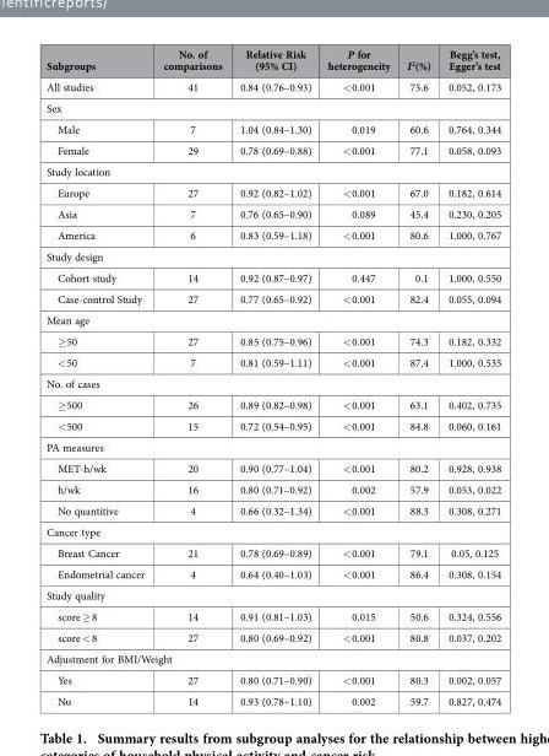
<table><thead><tr><td>Subgroups</td><td>No. of comparisons</td><td>Relative Risk (95% CI)</td><td>P for heterogeneity</td><td>I<sup>2</sup>(%)</td><td>Begg’s test, Egger’s test</td></tr></thead><tbody><tr><td>All studies</td><td>41</td><td>0.84 (0.76–0.93)</td><td>&lt; 0.001</td><td>75.6</td><td>0.052, 0.173</td></tr><tr><td colspan="6">Sex</td></tr><tr><td>Male</td><td>7</td><td>1.04 (0.84–1.30)</td><td>0.019</td><td>60.6</td><td>0.764, 0.344</td></tr><tr><td>Female</td><td>29</td><td>0.78 (0.69–0.88)</td><td>&lt; 0.001</td><td>77.1</td><td>0.058, 0.093</td></tr><tr><td colspan="6">Study location</td></tr><tr><td>Europe</td><td>27</td><td>0.92 (0.82–1.02)</td><td>&lt; 0.001</td><td>67.0</td><td>0.182, 0.614</td></tr><tr><td>Asia</td><td>7</td><td>0.76 (0.65–0.90)</td><td>0.089</td><td>45.4</td><td>0.230, 0.205</td></tr><tr><td>America</td><td>6</td><td>0.83 (0.59–1.18)</td><td>&lt; 0.001</td><td>80.6</td><td>1.000, 0.767</td></tr><tr><td colspan="6">Study design</td></tr><tr><td>Cohort study</td><td>14</td><td>0.92 (0.87–0.97)</td><td>0.447</td><td>0.1</td><td>1.000, 0.550</td></tr><tr><td>Case-control Study</td><td>27</td><td>0.77 (0.65–0.92)</td><td>&lt; 0.001</td><td>82.4</td><td>0.055, 0.094</td></tr><tr><td colspan="6">Mean age</td></tr><tr><td>≥ 50</td><td>27</td><td>0.85 (0.75–0.96)</td><td>&lt; 0.001</td><td>74.3</td><td>0.182, 0.332</td></tr><tr><td>&lt; 50</td><td>7</td><td>0.81 (0.59–1.11)</td><td>&lt; 0.001</td><td>87.4</td><td>1.000, 0.535</td></tr><tr><td colspan="6">No. of cases</td></tr><tr><td>≥ 500</td><td>26</td><td>0.89 (0.82–0.98)</td><td>&lt; 0.001</td><td>63.1</td><td>0.402, 0.735</td></tr><tr><td>&lt; 500</td><td>15</td><td>0.72 (0.54–0.95)</td><td>&lt; 0.001</td><td>84.8</td><td>0.060, 0.161</td></tr><tr><td colspan="6">PA measures</td></tr><tr><td>MET-h/wk</td><td>20</td><td>0.90 (0.77–1.04)</td><td>&lt; 0.001</td><td>80.2</td><td>0.928, 0.938</td></tr><tr><td>h/wk</td><td>16</td><td>0.80 (0.71–0.92)</td><td>0.002</td><td>57.9</td><td>0.053, 0.022</td></tr><tr><td>No quantitive</td><td>4</td><td>0.66 (0.32–1.34)</td><td>&lt; 0.001</td><td>88.3</td><td>0.308, 0.271</td></tr><tr><td colspan="6">Cancer type</td></tr><tr><td>Breast Cancer</td><td>21</td><td>0.78 (0.69–0.89)</td><td>&lt; 0.001</td><td>79.1</td><td>0.05, 0.125</td></tr><tr><td>Endometrial cancer</td><td>4</td><td>0.64 (0.40–1.03)</td><td>&lt; 0.001</td><td>86.4</td><td>0.308, 0.154</td></tr><tr><td colspan="6">Study quality</td></tr><tr><td>score ≥ 8</td><td>14</td><td>0.91 (0.81–1.03)</td><td>0.015</td><td>50.6</td><td>0.324, 0.556</td></tr><tr><td>score &lt; 8</td><td>27</td><td>0.80 (0.69–0.92)</td><td>&lt; 0.001</td><td>80.8</td><td>0.037, 0.202</td></tr><tr><td colspan="6">Adjustment for BMI/Weight</td></tr><tr><td>Yes</td><td>27</td><td>0.80 (0.71–0.90)</td><td>&lt; 0.001</td><td>80.3</td><td>0.002, 0.057</td></tr><tr><td>No</td><td>14</td><td>0.93 (0.78–1.10)</td><td>0.002</td><td>59.7</td><td>0.827, 0.474</td></tr></tbody></table>